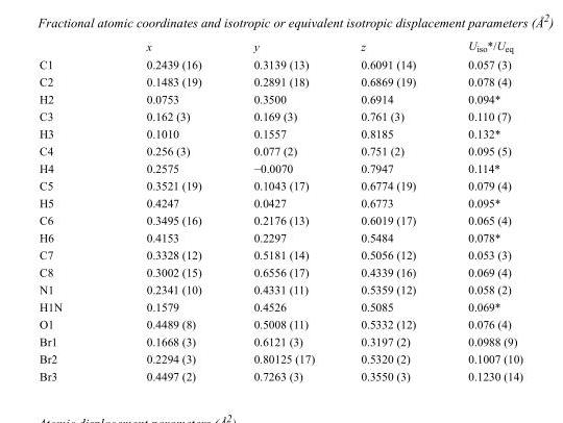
<table><thead><tr><td></td><td>x</td><td>y</td><td>z</td><td>U<sub>iso</sub>*/U<sub>eq</sub></td></tr></thead><tbody><tr><td>C1</td><td>0.2439 (16)</td><td>0.3139 (13)</td><td>0.6091 (14)</td><td>0.057 (3)</td></tr><tr><td>C2</td><td>0.1483 (19)</td><td>0.2891 (18)</td><td>0.6869 (19)</td><td>0.078 (4)</td></tr><tr><td>H2</td><td>0.0753</td><td>0.3500</td><td>0.6914</td><td>0.094*</td></tr><tr><td>C3</td><td>0.162 (3)</td><td>0.169 (3)</td><td>0.761 (3)</td><td>0.110 (7)</td></tr><tr><td>H3</td><td>0.1010</td><td>0.1557</td><td>0.8185</td><td>0.132*</td></tr><tr><td>C4</td><td>0.256 (3)</td><td>0.077 (2)</td><td>0.751 (2)</td><td>0.095 (5)</td></tr><tr><td>H4</td><td>0.2575</td><td>−0.0070</td><td>0.7947</td><td>0.114*</td></tr><tr><td>C5</td><td>0.3521 (19)</td><td>0.1043 (17)</td><td>0.6774 (19)</td><td>0.079 (4)</td></tr><tr><td>H5</td><td>0.4247</td><td>0.0427</td><td>0.6773</td><td>0.095*</td></tr><tr><td>C6</td><td>0.3495 (16)</td><td>0.2176 (13)</td><td>0.6019 (17)</td><td>0.065 (4)</td></tr><tr><td>H6</td><td>0.4153</td><td>0.2297</td><td>0.5484</td><td>0.078*</td></tr><tr><td>C7</td><td>0.3328 (12)</td><td>0.5181 (14)</td><td>0.5056 (12)</td><td>0.053 (3)</td></tr><tr><td>C8</td><td>0.3002 (15)</td><td>0.6556 (17)</td><td>0.4339 (16)</td><td>0.069 (4)</td></tr><tr><td>N1</td><td>0.2341 (10)</td><td>0.4331 (11)</td><td>0.5359 (12)</td><td>0.058 (2)</td></tr><tr><td>H1N</td><td>0.1579</td><td>0.4526</td><td>0.5085</td><td>0.069*</td></tr><tr><td>O1</td><td>0.4489 (8)</td><td>0.5008 (11)</td><td>0.5332 (12)</td><td>0.076 (4)</td></tr><tr><td>Br1</td><td>0.1668 (3)</td><td>0.6121 (3)</td><td>0.3197 (2)</td><td>0.0988 (9)</td></tr><tr><td>Br2</td><td>0.2294 (3)</td><td>0.80125 (17)</td><td>0.5320 (2)</td><td>0.1007 (10)</td></tr><tr><td>Br3</td><td>0.4497 (2)</td><td>0.7263 (3)</td><td>0.3550 (3)</td><td>0.1230 (14)</td></tr></tbody></table>